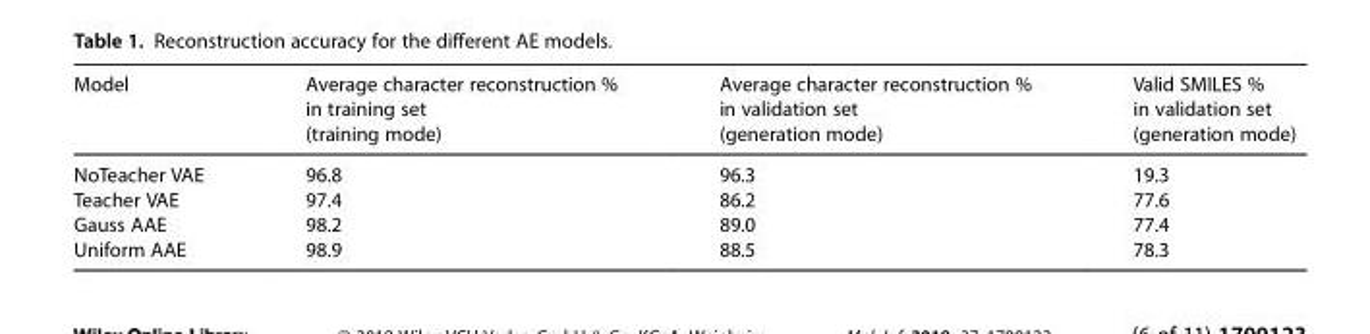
<table><thead><tr><td>Model</td><td>Average character reconstruction % in training set (training mode)</td><td>Average character reconstruction % in validation set (generation mode)</td><td>Valid SMILES % in validation set (generation mode)</td></tr></thead><tbody><tr><td>NoTeacher VAE</td><td>96.8</td><td>96.3</td><td>19.3</td></tr><tr><td>Teacher VAE</td><td>97.4</td><td>86.2</td><td>77.6</td></tr><tr><td>Gauss AAE</td><td>98.2</td><td>89.0</td><td>77.4</td></tr><tr><td>Uniform AAE</td><td>98.9</td><td>88.5</td><td>78.3</td></tr></tbody></table>